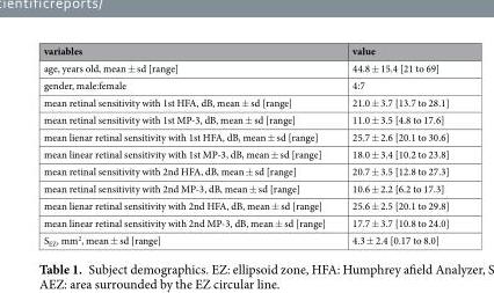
<table><thead><tr><td>variables</td><td>value</td></tr></thead><tbody><tr><td>age, years old, mean ± sd [range]</td><td>44.8 ± 15.4 [21 to 69]</td></tr><tr><td>gender, male:female</td><td>4:7</td></tr><tr><td>mean retinal sensitivity with 1st HFA, dB, mean ± sd [range]</td><td>21.0 ± 3.7 [13.7 to 28.1]</td></tr><tr><td>mean retinal sensitivity with 1st MP-3, dB, mean ± sd [range]</td><td>11.0 ± 3.5 [4.8 to 17.6]</td></tr><tr><td>mean lienar retinal sensitivity with 1st HFA, dB, mean ± sd [range]</td><td>25.7 ± 2.6 [20.1 to 30.6]</td></tr><tr><td>mean linear retinal sensitivity with 1st MP-3, dB, mean ± sd [range]</td><td>18.0 ± 3.4 [10.2 to 23.8]</td></tr><tr><td>mean retinal sensitivity with 2nd HFA, dB, mean ± sd [range]</td><td>20.7 ± 3.5 [12.8 to 27.3]</td></tr><tr><td>mean retinal sensitivity with 2nd MP-3, dB, mean ± sd [range]</td><td>10.6 ± 2.2 [6.2 to 17.3]</td></tr><tr><td>mean lienar retinal sensitivity with 2nd HFA, dB, mean ± sd [range]</td><td>25.6 ± 2.5 [20.1 to 29.8]</td></tr><tr><td>mean linear retinal sensitivity with 2nd MP-3, dB, mean ± sd [range]</td><td>17.7 ± 3.7 [10.8 to 24.0]</td></tr><tr><td>S<sub>EZ</sub>, mm<sup>2</sup>, mean ± sd [range]</td><td>4.3 ± 2.4 [0.17 to 8.0]</td></tr></tbody></table>